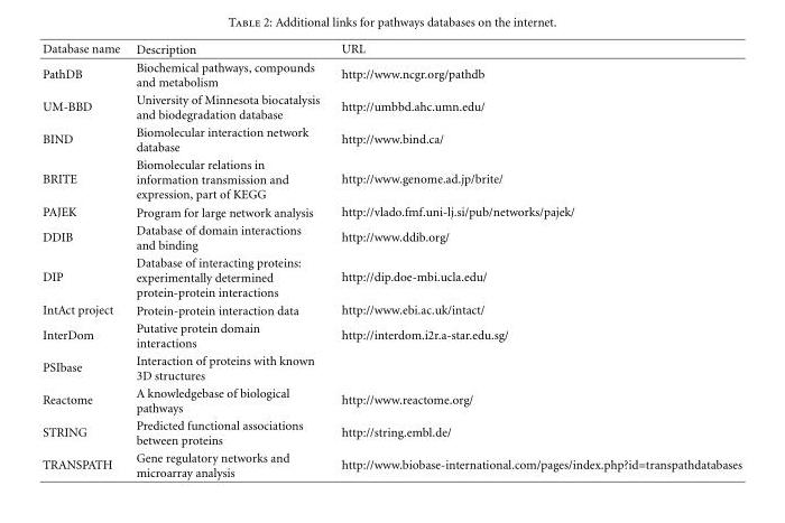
<table><thead><tr><td>Database name</td><td>Description</td><td>URL</td></tr></thead><tbody><tr><td>PathDB</td><td>Biochemical pathways, compounds and metabolism</td><td>http://www.ncgr.org/pathdb</td></tr><tr><td>UM-BBD</td><td>University of Minnesota biocatalysis and biodegradation database</td><td>http://umbbd.ahc.umn.edu/</td></tr><tr><td>BIND</td><td>Biomolecular interaction network database</td><td>http://www.bind.ca/</td></tr><tr><td>BRITE</td><td>Biomolecular relations in information transmission and expression, part of KEGG</td><td>http://www.genome.ad.jp/brite/</td></tr><tr><td>PAJEK</td><td>Program for large network analysis</td><td>http://vlado.fmf.uni-lj.si/pub/networks/pajek/</td></tr><tr><td>DDIB</td><td>Database of domain interactions and binding</td><td>http://www.ddib.org/</td></tr><tr><td>DIP</td><td>Database of interacting proteins: experimentally determined protein-protein interactions</td><td>http://dip.doe-mbi.ucla.edu/</td></tr><tr><td>IntAct project</td><td>Protein-protein interaction data</td><td>http://www.ebi.ac.uk/intact/</td></tr><tr><td>InterDom</td><td>Putative protein domain interactions</td><td>http://interdom.i2r.a-star.edu.sg/</td></tr><tr><td>PSIbase</td><td>Interaction of proteins with known 3D structures</td><td></td></tr><tr><td>Reactome</td><td>A knowledgebase of biological pathways</td><td>http://www.reactome.org/</td></tr><tr><td>STRING</td><td>Predicted functional associations between proteins</td><td>http://string.embl.de/</td></tr><tr><td>TRANSPATH</td><td>Gene regulatory networks and microarray analysis</td><td>http://www.biobase-international.com/pages/index.php?id=transpathdatabases</td></tr></tbody></table>